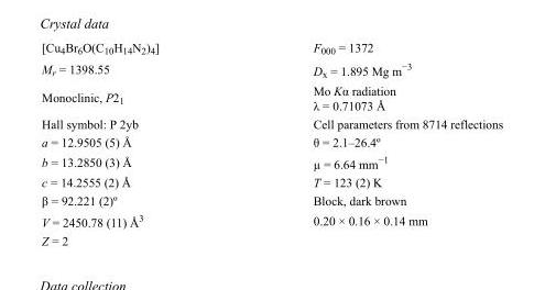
<table><tbody><tr><td>[Cu<sub>4</sub>Br<sub>6</sub>O(C<sub>10</sub>H<sub>14</sub>N<sub>2</sub>)<sub>4</sub>]</td><td>F<sub>000</sub> = 1372</td></tr><tr><td>M<sub>r</sub> = 1398.55</td><td>D<sub>x</sub> = 1.895 Mg m<sup>−3</sup></td></tr><tr><td>Monoclinic, P2<sub>1</sub></td><td>Mo Kα radiation λ = 0.71073 Å</td></tr><tr><td>Hall symbol: P 2yb</td><td>Cell parameters from 8714 reflections</td></tr><tr><td>a = 12.9505 (5) Å</td><td>θ = 2.1–26.4º</td></tr><tr><td>b = 13.2850 (3) Å</td><td>µ = 6.64 mm<sup>−1</sup></td></tr><tr><td>c = 14.2555 (2) Å</td><td>T = 123 (2) K</td></tr><tr><td>β = 92.221 (2)º</td><td>Block, dark brown</td></tr><tr><td>V = 2450.78 (11) Å<sup>3</sup></td><td>0.20 × 0.16 × 0.14 mm</td></tr><tr><td>Z = 2</td><td></td></tr></tbody></table>